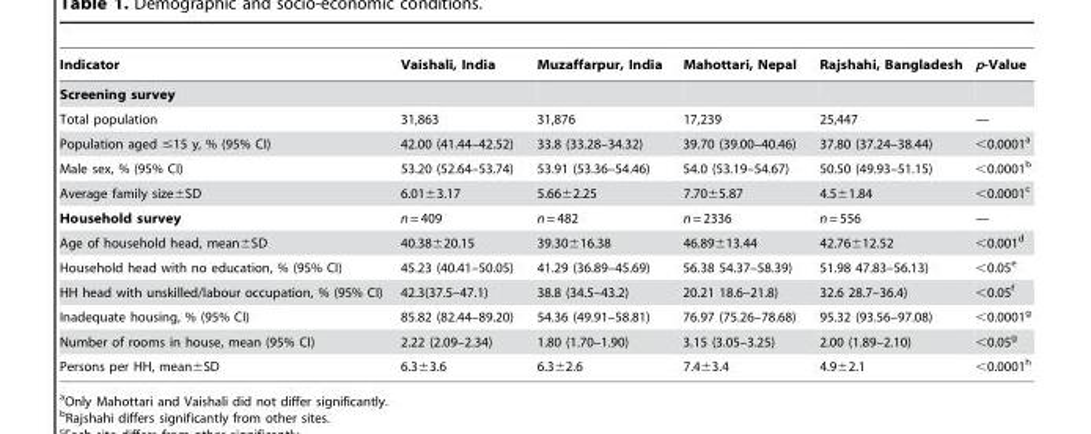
<table><thead><tr><td>Indicator</td><td>Vaishali, India</td><td>Muzaffarpur, India</td><td>Mahottari, Nepal</td><td>Rajshahi, Bangladesh</td><td>p-Value</td></tr></thead><tbody><tr><td colspan="6">Screening survey</td></tr><tr><td>Total population</td><td>31,863</td><td>31,876</td><td>17,239</td><td>25,447</td><td>—</td></tr><tr><td>Population aged ≤15 y, % (95% CI)</td><td>42.00 (41.44–42.52)</td><td>33.8 (33.28–34.32)</td><td>39.70 (39.00–40.46)</td><td>37.80 (37.24–38.44)</td><td>&lt;0.0001<sup>a</sup></td></tr><tr><td>Male sex, % (95% CI)</td><td>53.20 (52.64–53.74)</td><td>53.91 (53.36–54.46)</td><td>54.0 (53.19–54.67)</td><td>50.50 (49.93–51.15)</td><td>&lt;0.0001<sup>b</sup></td></tr><tr><td>Average family size±SD</td><td>6.01±3.17</td><td>5.66±2.25</td><td>7.70±5.87</td><td>4.5±1.84</td><td>&lt;0.0001<sup>c</sup></td></tr><tr><td>Household survey</td><td>n = 409</td><td>n = 482</td><td>n = 2336</td><td>n = 556</td><td>—</td></tr><tr><td>Age of household head, mean±SD</td><td>40.38±20.15</td><td>39.30±16.38</td><td>46.89±13.44</td><td>42.76±12.52</td><td>&lt;0.001<sup>d</sup></td></tr><tr><td>Household head with no education, % (95% CI)</td><td>45.23 (40.41–50.05)</td><td>41.29 (36.89–45.69)</td><td>56.38 54.37–58.39)</td><td>51.98 47.83–56.13)</td><td>&lt;0.05<sup>e</sup></td></tr><tr><td>HH head with unskilled/labour occupation, % (95% CI)</td><td>42.3(37.5–47.1)</td><td>38.8 (34.5–43.2)</td><td>20.21 18.6–21.8)</td><td>32.6 28.7–36.4)</td><td>&lt;0.05<sup>f</sup></td></tr><tr><td>Inadequate housing, % (95% CI)</td><td>85.82 (82.44–89.20)</td><td>54.36 (49.91–58.81)</td><td>76.97 (75.26–78.68)</td><td>95.32 (93.56–97.08)</td><td>&lt;0.0001<sup>g</sup></td></tr><tr><td>Number of rooms in house, mean (95% CI)</td><td>2.22 (2.09–2.34)</td><td>1.80 (1.70–1.90)</td><td>3.15 (3.05–3.25)</td><td>2.00 (1.89–2.10)</td><td>&lt;0.05<sup>g</sup></td></tr><tr><td>Persons per HH, mean±SD</td><td>6.3±3.6</td><td>6.3±2.6</td><td>7.4±3.4</td><td>4.9±2.1</td><td>&lt;0.0001<sup>h</sup></td></tr></tbody></table>